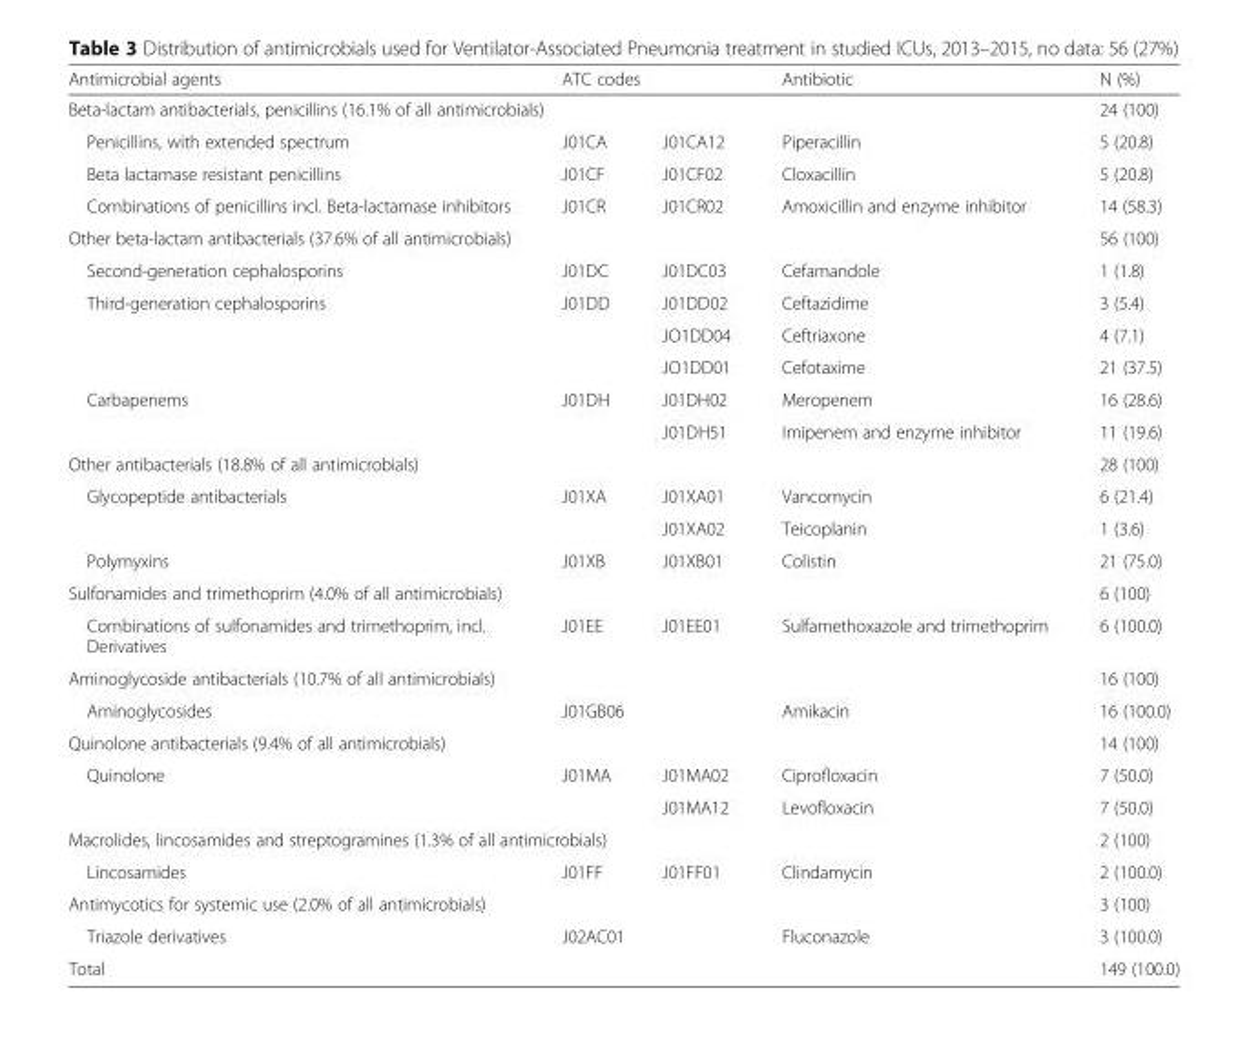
<table><thead><tr><td>Antimicrobial agents</td><td colspan="2">ATC codes</td><td>Antibiotic</td><td rowspan="3">N (%) 24 (100) 5 (20.8)</td></tr><tr><td colspan="4">Beta-lactam antibacterials, penicillins (16.1% of all antimicrobials)</td></tr><tr><td>Penicillins, with extended spectrum</td><td>J01CA</td><td>J01CA12</td><td>Piperacillin</td></tr></thead><tbody><tr><td>Beta lactamase resistant penicillins</td><td>J01CF</td><td>J01CF02</td><td>Cloxacillin</td><td>5 (20.8)</td></tr><tr><td>Combinations of penicillins incl. Beta-lactamase inhibitors</td><td>J01CR</td><td>J01CR02</td><td>Amoxicillin and enzyme inhibitor</td><td>14 (58.3)</td></tr><tr><td colspan="4">Other beta-lactam antibacterials (37.6% of all antimicrobials)</td><td>56 (100)</td></tr><tr><td>Second-generation cephalosporins</td><td>J01DC</td><td>J01DC03</td><td>Cefamandole</td><td>1 (1.8)</td></tr><tr><td rowspan="3">Third-generation cephalosporins</td><td rowspan="3">J01DD</td><td>J01DD02</td><td>Ceftazidime</td><td>3 (5.4)</td></tr><tr><td>JO1DD04</td><td>Ceftriaxone</td><td>4 (7.1)</td></tr><tr><td>JO1DD01</td><td>Cefotaxime</td><td>21 (37.5)</td></tr><tr><td rowspan="2">Carbapenems</td><td rowspan="2">J01DH</td><td>J01DH02</td><td>Meropenem</td><td>16 (28.6)</td></tr><tr><td>J01DH51</td><td>Imipenem and enzyme inhibitor</td><td>11 (19.6)</td></tr><tr><td colspan="4">Other antibacterials (18.8% of all antimicrobials)</td><td>28 (100)</td></tr><tr><td rowspan="2">Glycopeptide antibacterials</td><td rowspan="2">J01XA</td><td>J01XA01</td><td>Vancomycin</td><td>6 (21.4)</td></tr><tr><td>J01XA02</td><td>Teicoplanin</td><td>1 (3.6)</td></tr><tr><td>Polymyxins</td><td>J01XB</td><td>J01XB01</td><td>Colistin</td><td>21 (75.0)</td></tr><tr><td colspan="4">Sulfonamides and trimethoprim (4.0% of all antimicrobials)</td><td>6 (100)</td></tr><tr><td>Combinations of sulfonamides and trimethoprim, incl. Derivatives</td><td>J01EE</td><td>J01EE01</td><td>Sulfamethoxazole and trimethoprim</td><td>6 (100.0)</td></tr><tr><td colspan="4">Aminoglycoside antibacterials (10.7% of all antimicrobials)</td><td>16 (100)</td></tr><tr><td>Aminoglycosides</td><td colspan="2">J01GB06</td><td>Amikacin</td><td>16 (100.0)</td></tr><tr><td colspan="4">Quinolone antibacterials (9.4% of all antimicrobials)</td><td>14 (100)</td></tr><tr><td rowspan="2">Quinolone</td><td rowspan="2">J01MA</td><td>J01MA02</td><td>Ciprofloxacin</td><td>7 (50.0)</td></tr><tr><td>J01MA12</td><td>Levofloxacin</td><td>7 (50.0)</td></tr><tr><td colspan="4">Macrolides, lincosamides and streptogramines (1.3% of all antimicrobials)</td><td>2 (100)</td></tr><tr><td>Lincosamides</td><td>J01FF</td><td>J01FF01</td><td>Clindamycin</td><td>2 (100.0)</td></tr><tr><td colspan="4">Antimycotics for systemic use (2.0% of all antimicrobials)</td><td>3 (100)</td></tr><tr><td>Triazole derivatives</td><td colspan="2">J02AC01</td><td>Fluconazole</td><td>3 (100.0)</td></tr><tr><td colspan="4">Total</td><td>149 (100.0)</td></tr></tbody></table>